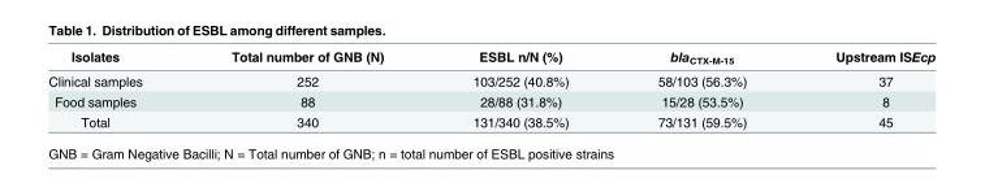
<table><thead><tr><td>Isolates</td><td>Total number of GNB (N)</td><td>ESBL n/N (%)</td><td>bla<sub>CTX-M-15</sub></td><td>Upstream ISEcp</td></tr></thead><tbody><tr><td>Clinical samples</td><td>252</td><td>103/252 (40.8%)</td><td>58/103 (56.3%)</td><td>37</td></tr><tr><td>Food samples</td><td>88</td><td>28/88 (31.8%)</td><td>15/28 (53.5%)</td><td>8</td></tr><tr><td>Total</td><td>340</td><td>131/340 (38.5%)</td><td>73/131 (59.5%)</td><td>45</td></tr></tbody></table>